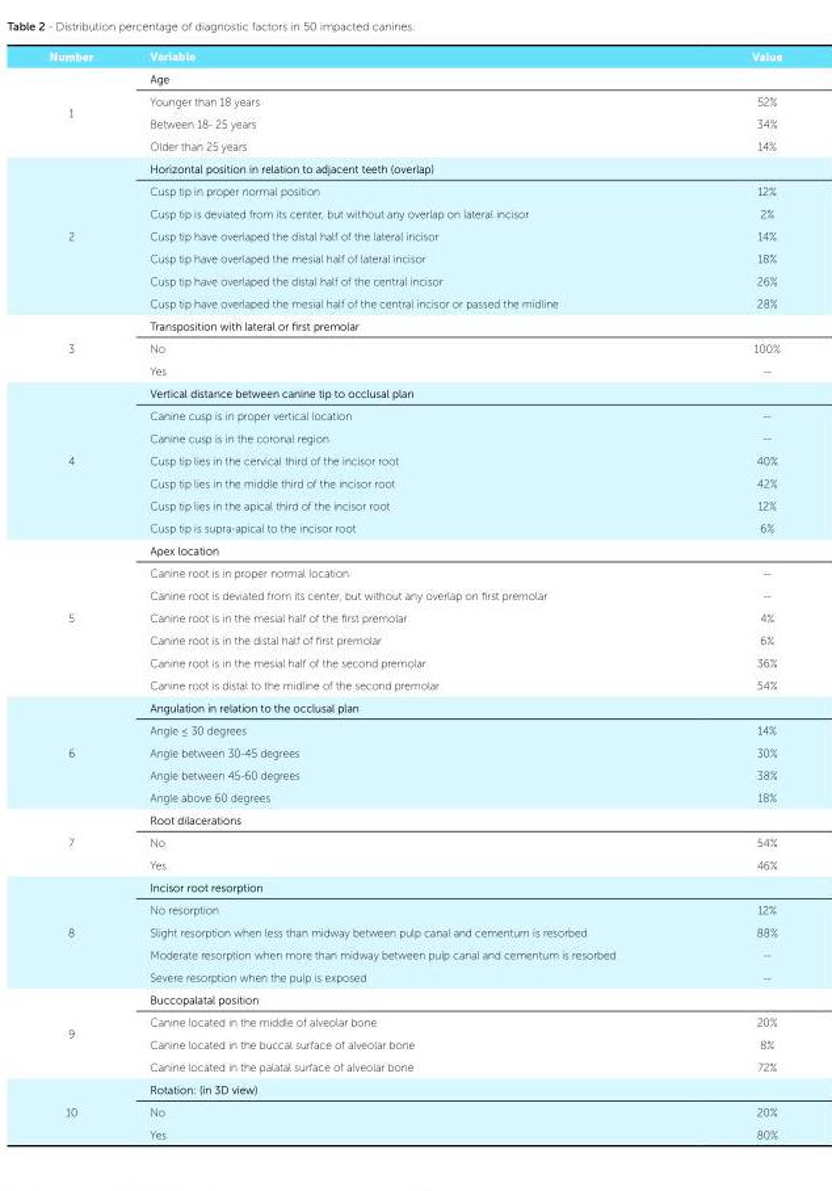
<table><thead><tr><td>Number</td><td>Variable</td><td>Value</td></tr></thead><tbody><tr><td rowspan="4">1</td><td>Age</td><td></td></tr><tr><td>Younger than 18 years</td><td>52%</td></tr><tr><td>Between 18- 25 years</td><td>34%</td></tr><tr><td>Older than 25 years</td><td>14%</td></tr><tr><td rowspan="7">2</td><td>Horizontal position in relation to adjacent teeth (overlap)</td><td></td></tr><tr><td>Cusp tip in proper normal position</td><td>12%</td></tr><tr><td>Cusp tip is deviated from its center, but without any overlap on lateral incisor</td><td>2%</td></tr><tr><td>Cusp tip have overlaped the distal half of the lateral incisor</td><td>14%</td></tr><tr><td>Cusp tip have overlaped the mesial half of lateral incisor</td><td>18%</td></tr><tr><td>Cusp tip have overlaped the distal half of the central incisor</td><td>26%</td></tr><tr><td>Cusp tip have overlaped the mesial half of the central incisor or passed the midline</td><td>28%</td></tr><tr><td rowspan="3">3</td><td>Transposition with lateral or first premolar</td><td></td></tr><tr><td>No</td><td>100%</td></tr><tr><td>Yes</td><td>--</td></tr><tr><td rowspan="7">4</td><td>Vertical distance between canine tip to occlusal plan</td><td></td></tr><tr><td>Canine cusp is in proper vertical location</td><td>--</td></tr><tr><td>Canine cusp is in the coronal region</td><td>--</td></tr><tr><td>Cusp tip lies in the cervical third of the incisor root</td><td>40%</td></tr><tr><td>Cusp tip lies in the middle third of the incisor root</td><td>42%</td></tr><tr><td>Cusp tip lies in the apical third of the incisor root</td><td>12%</td></tr><tr><td>Cusp tip is supra-apical to the incisor root</td><td>6%</td></tr><tr><td rowspan="7">5</td><td>Apex location</td><td></td></tr><tr><td>Canine root is in proper normal location</td><td>--</td></tr><tr><td>Canine root is deviated from its center, but without any overlap on first premolar</td><td>--</td></tr><tr><td>Canine root is in the mesial half of the first premolar</td><td>4%</td></tr><tr><td>Canine root is in the distal half of first premolar</td><td>6%</td></tr><tr><td>Canine root is in the mesial half of the second premolar</td><td>36%</td></tr><tr><td>Canine root is distal to the midline of the second premolar</td><td>54%</td></tr><tr><td rowspan="5">6</td><td>Angulation in relation to the occlusal plan</td><td></td></tr><tr><td>Angle ≤ 30 degrees</td><td>14%</td></tr><tr><td>Angle between 30-45 degrees</td><td>30%</td></tr><tr><td>Angle between 45-60 degrees</td><td>38%</td></tr><tr><td>Angle above 60 degrees</td><td>18%</td></tr><tr><td rowspan="3">7</td><td>Root dilacerations</td><td></td></tr><tr><td>No</td><td>54%</td></tr><tr><td>Yes</td><td>46%</td></tr><tr><td rowspan="5">8</td><td>Incisor root resorption</td><td></td></tr><tr><td>No resorption</td><td>12%</td></tr><tr><td>Slight resorption when less than midway between pulp canal and cementum is resorbed</td><td>88%</td></tr><tr><td>Moderate resorption when more than midway between pulp canal and cementum is resorbed</td><td>--</td></tr><tr><td>Severe resorption when the pulp is exposed</td><td>--</td></tr><tr><td rowspan="4">9</td><td>Buccopalatal position</td><td></td></tr><tr><td>Canine located in the middle of alveolar bone</td><td>20%</td></tr><tr><td>Canine located in the buccal surface of alveolar bone</td><td>8%</td></tr><tr><td>Canine located in the palatal surface of alveolar bone</td><td>72%</td></tr><tr><td rowspan="3">10</td><td>Rotation: (in 3D view)</td><td></td></tr><tr><td>No</td><td>20%</td></tr><tr><td>Yes</td><td>80%</td></tr></tbody></table>